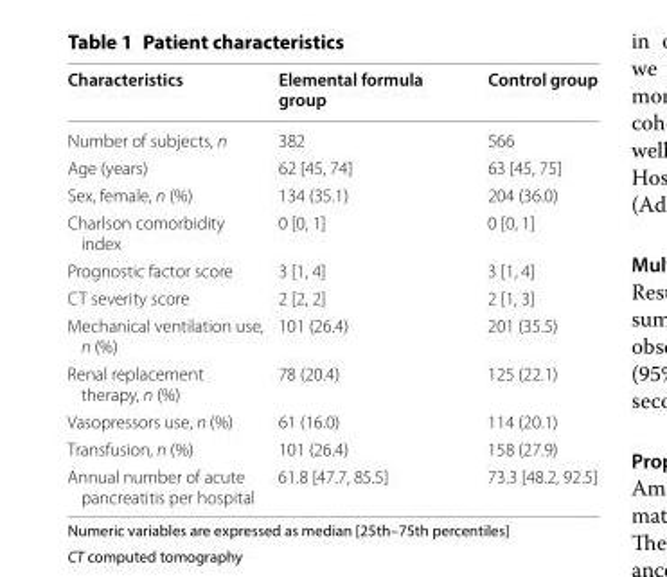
<table><thead><tr><td>Characteristics</td><td>Elemental formula group</td><td>Control group</td></tr></thead><tbody><tr><td>Number of subjects, n</td><td>382</td><td>566</td></tr><tr><td>Age (years)</td><td>62 [45, 74]</td><td>63 [45, 75]</td></tr><tr><td>Sex, female, n (%)</td><td>134 (35.1)</td><td>204 (36.0)</td></tr><tr><td>Charlson comorbidity index</td><td>0 [0, 1]</td><td>0 [0, 1]</td></tr><tr><td>Prognostic factor score</td><td>3 [1, 4]</td><td>3 [1, 4]</td></tr><tr><td>CT severity score</td><td>2 [2, 2]</td><td>2 [1, 3]</td></tr><tr><td>Mechanical ventilation use, n (%)</td><td>101 (26.4)</td><td>201 (35.5)</td></tr><tr><td>Renal replacement therapy, n (%)</td><td>78 (20.4)</td><td>125 (22.1)</td></tr><tr><td>Vasopressors use, n (%)</td><td>61 (16.0)</td><td>114 (20.1)</td></tr><tr><td>Transfusion, n (%)</td><td>101 (26.4)</td><td>158 (27.9)</td></tr><tr><td>Annual number of acute pancreatitis per hospital</td><td>61.8 [47.7, 85.5]</td><td>73.3 [48.2, 92.5]</td></tr></tbody></table>